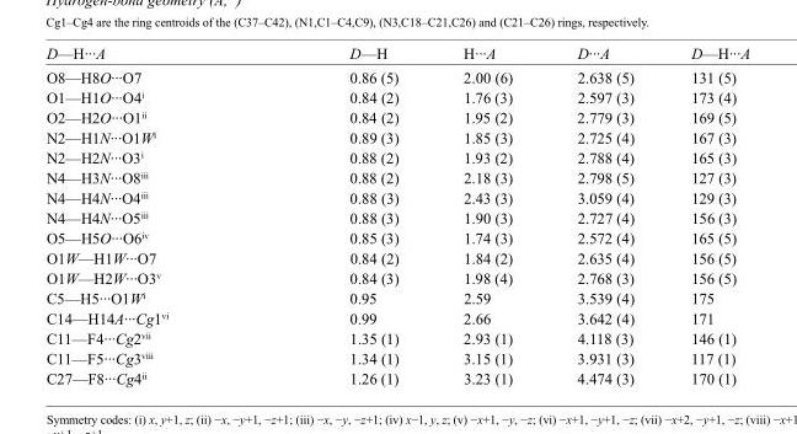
<table><tbody><tr><td>D—H···A</td><td>D—H</td><td>H···A</td><td>D···A</td><td>D—H···A</td></tr><tr><td>O8—H8O···O7</td><td>0.86 (5)</td><td>2.00 (6)</td><td>2.638 (5)</td><td>131 (5)</td></tr><tr><td>O1—H1O···O4<sup>i</sup></td><td>0.84 (2)</td><td>1.76 (3)</td><td>2.597 (3)</td><td>173 (4)</td></tr><tr><td>O2—H2O···O1<sup>ii</sup></td><td>0.84 (2)</td><td>1.95 (2)</td><td>2.779 (3)</td><td>169 (5)</td></tr><tr><td>N2—H1N···O1W<sup>i</sup></td><td>0.89 (3)</td><td>1.85 (3)</td><td>2.725 (4)</td><td>167 (3)</td></tr><tr><td>N2—H2N···O3<sup>i</sup></td><td>0.88 (2)</td><td>1.93 (2)</td><td>2.788 (4)</td><td>165 (3)</td></tr><tr><td>N4—H3N···O8<sup>iii</sup></td><td>0.88 (2)</td><td>2.18 (3)</td><td>2.798 (5)</td><td>127 (3)</td></tr><tr><td>N4—H4N···O4<sup>iii</sup></td><td>0.88 (3)</td><td>2.43 (3)</td><td>3.059 (4)</td><td>129 (3)</td></tr><tr><td>N4—H4N···O5<sup>iii</sup></td><td>0.88 (3)</td><td>1.90 (3)</td><td>2.727 (4)</td><td>156 (3)</td></tr><tr><td>O5—H5O···O6<sup>iv</sup></td><td>0.85 (3)</td><td>1.74 (3)</td><td>2.572 (4)</td><td>165 (5)</td></tr><tr><td>O1W—H1W···O7</td><td>0.84 (2)</td><td>1.84 (2)</td><td>2.635 (4)</td><td>156 (5)</td></tr><tr><td>O1W—H2W···O3<sup>v</sup></td><td>0.84 (3)</td><td>1.98 (4)</td><td>2.768 (3)</td><td>156 (5)</td></tr><tr><td>C5—H5···O1W<sup>i</sup></td><td>0.95</td><td>2.59</td><td>3.539 (4)</td><td>175</td></tr><tr><td>C14—H14A···Cg1<sup>vi</sup></td><td>0.99</td><td>2.66</td><td>3.642 (4)</td><td>171</td></tr><tr><td>C11—F4···Cg2<sup>vii</sup></td><td>1.35 (1)</td><td>2.93 (1)</td><td>4.118 (3)</td><td>146 (1)</td></tr><tr><td>C11—F5···Cg3<sup>viii</sup></td><td>1.34 (1)</td><td>3.15 (1)</td><td>3.931 (3)</td><td>117 (1)</td></tr><tr><td>C27—F8···Cg4<sup>ii</sup></td><td>1.26 (1)</td><td>3.23 (1)</td><td>4.474 (3)</td><td>170 (1)</td></tr></tbody></table>